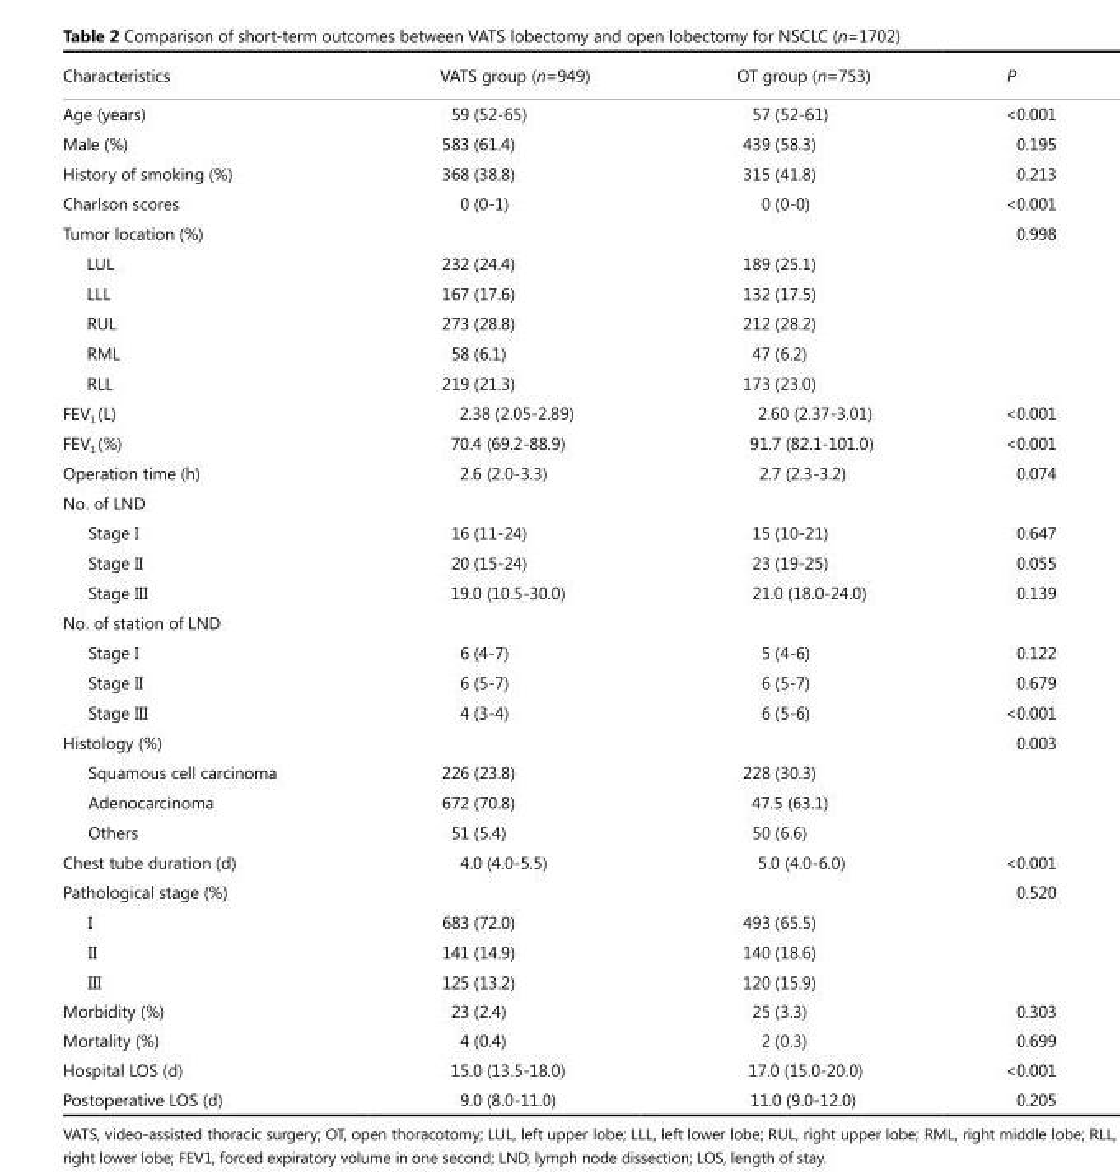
<table><thead><tr><td>Characteristics</td><td>VATS group (n=949)</td><td>OT group (n=753)</td><td>P</td></tr></thead><tbody><tr><td>Age (years)</td><td>59 (52-65)</td><td>57 (52-61)</td><td>&lt;0.001</td></tr><tr><td>Male (%)</td><td>583 (61.4)</td><td>439 (58.3)</td><td>0.195</td></tr><tr><td>History of smoking (%)</td><td>368 (38.8)</td><td>315 (41.8)</td><td>0.213</td></tr><tr><td>Charlson scores</td><td>0 (0-1)</td><td>0 (0-0)</td><td>&lt;0.001</td></tr><tr><td>Tumor location (%)</td><td></td><td></td><td>0.998</td></tr><tr><td>LUL</td><td>232 (24.4)</td><td>189 (25.1)</td><td></td></tr><tr><td>LLL</td><td>167 (17.6)</td><td>132 (17.5)</td><td></td></tr><tr><td>rUL</td><td>273 (28.8)</td><td>212 (28.2)</td><td></td></tr><tr><td>rML</td><td>58 (6.1)</td><td>47 (6.2)</td><td></td></tr><tr><td>rLL</td><td>219 (21.3)</td><td>173 (23.0)</td><td></td></tr><tr><td>FeV<sub>1</sub> (L)</td><td>2.38 (2.05-2.89)</td><td>2.60 (2.37-3.01)</td><td>&lt;0.001</td></tr><tr><td>FeV<sub>1</sub> (%)</td><td>70.4 (69.2-88.9)</td><td>91.7 (82.1-101.0)</td><td>&lt;0.001</td></tr><tr><td>Operation time (h)</td><td>2.6 (2.0-3.3)</td><td>2.7 (2.3-3.2)</td><td>0.074</td></tr><tr><td colspan="4">No. of LND</td></tr><tr><td>Stage I</td><td>16 (11-24)</td><td>15 (10-21)</td><td>0.647</td></tr><tr><td>Stage II</td><td>20 (15-24)</td><td>23 (19-25)</td><td>0.055</td></tr><tr><td>Stage III</td><td>19.0 (10.5-30.0)</td><td>21.0 (18.0-24.0)</td><td>0.139</td></tr><tr><td colspan="4">No. of station of LND</td></tr><tr><td>Stage I</td><td>6 (4-7)</td><td>5 (4-6)</td><td>0.122</td></tr><tr><td>Stage II</td><td>6 (5-7)</td><td>6 (5-7)</td><td>0.679</td></tr><tr><td>Stage III</td><td>4 (3-4)</td><td>6 (5-6)</td><td>&lt;0.001</td></tr><tr><td>Histology (%)</td><td></td><td></td><td>0.003</td></tr><tr><td>Squamous cell carcinoma</td><td>226 (23.8)</td><td>228 (30.3)</td><td></td></tr><tr><td>Adenocarcinoma</td><td>672 (70.8)</td><td>47.5 (63.1)</td><td></td></tr><tr><td>Others</td><td>51 (5.4)</td><td>50 (6.6)</td><td></td></tr><tr><td>Chest tube duration (d)</td><td>4.0 (4.0-5.5)</td><td>5.0 (4.0-6.0)</td><td>&lt;0.001</td></tr><tr><td>Pathological stage (%)</td><td></td><td></td><td>0.520</td></tr><tr><td>I</td><td>683 (72.0)</td><td>493 (65.5)</td><td></td></tr><tr><td>II</td><td>141 (14.9)</td><td>140 (18.6)</td><td></td></tr><tr><td>III</td><td>125 (13.2)</td><td>120 (15.9)</td><td></td></tr><tr><td>Morbidity (%)</td><td>23 (2.4)</td><td>25 (3.3)</td><td>0.303</td></tr><tr><td>Mortality (%)</td><td>4 (0.4)</td><td>2 (0.3)</td><td>0.699</td></tr><tr><td>Hospital LOS (d)</td><td>15.0 (13.5-18.0)</td><td>17.0 (15.0-20.0)</td><td>&lt;0.001</td></tr><tr><td>Postoperative LOS (d)</td><td>9.0 (8.0-11.0)</td><td>11.0 (9.0-12.0)</td><td>0.205</td></tr></tbody></table>